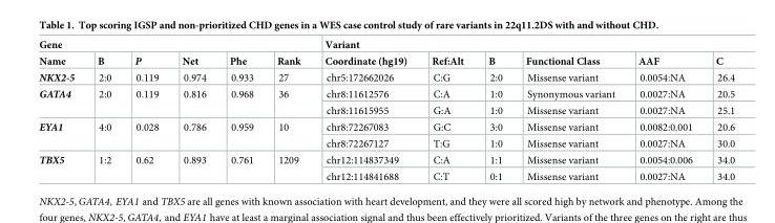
<table><thead><tr><td colspan="6">Gene</td><td colspan="6">Variant</td></tr><tr><td>Name</td><td>B</td><td>P</td><td>Net</td><td>Phe</td><td>Rank</td><td>Coordinate (hg19)</td><td>Ref:Alt</td><td>B</td><td>Functional Class</td><td>AAF</td><td>C</td></tr></thead><tbody><tr><td>NKX2-5</td><td>2:0</td><td>0.119</td><td>0.974</td><td>0.933</td><td>27</td><td>chr5:172662026</td><td>C:G</td><td>2:0</td><td>Missense variant</td><td>0.0054:NA</td><td>26.4</td></tr><tr><td rowspan="2">GATA4</td><td rowspan="2">2:0</td><td rowspan="2">0.119</td><td rowspan="2">0.816</td><td rowspan="2">0.968</td><td rowspan="2">36</td><td>chr8:11612576</td><td>C:A</td><td>1:0</td><td>Synonymous variant</td><td>0.0027:NA</td><td>20.5</td></tr><tr><td>chr8:11615955</td><td>G:A</td><td>1:0</td><td>Missense variant</td><td>0.0027:NA</td><td>25.1</td></tr><tr><td rowspan="2">EYA1</td><td rowspan="2">4:0</td><td rowspan="2">0.028</td><td rowspan="2">0.786</td><td rowspan="2">0.959</td><td rowspan="2">10</td><td>chr8:72267083</td><td>G:C</td><td>3:0</td><td>Missense variant</td><td>0.0082:0.001</td><td>20.6</td></tr><tr><td>chr8:72267127</td><td>T:G</td><td>1:0</td><td>Missense variant</td><td>0.0027:NA</td><td>30.0</td></tr><tr><td rowspan="2">TBX5</td><td rowspan="2">1:2</td><td rowspan="2">0.62</td><td rowspan="2">0.893</td><td rowspan="2">0.761</td><td rowspan="2">1209</td><td>chr12:114837349</td><td>C:A</td><td>1:1</td><td>Missense variant</td><td>0.0054:0.006</td><td>34.0</td></tr><tr><td>chr12:114841688</td><td>C:T</td><td>0:1</td><td>Missense variant</td><td>0.0027:NA</td><td>34.0</td></tr></tbody></table>